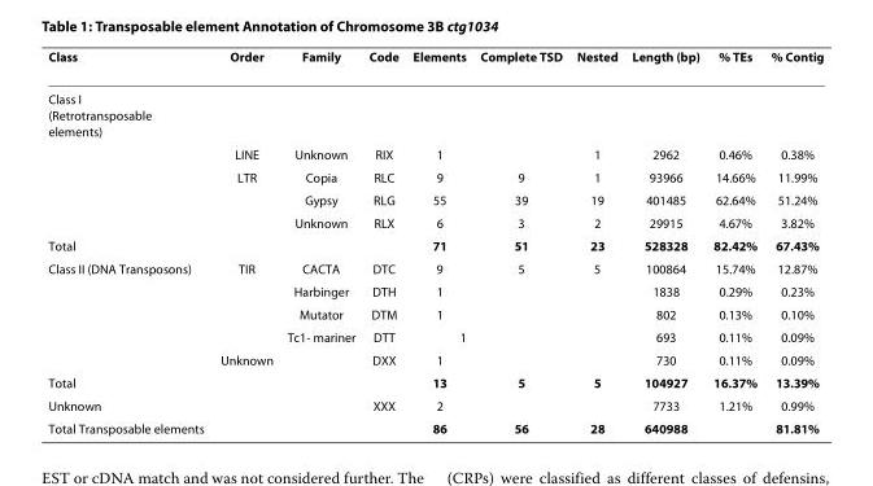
<table><thead><tr><td>Class</td><td>Order</td><td>Family</td><td>Code</td><td>Elements</td><td>Complete TSD</td><td>Nested</td><td>Length (bp)</td><td>% TEs</td><td>% Contig</td></tr></thead><tbody><tr><td colspan="10">Class I (Retrotransposable elements)</td></tr><tr><td></td><td>LINE</td><td>Unknown</td><td>RIX</td><td>1</td><td></td><td>1</td><td>2962</td><td>0.46%</td><td>0.38%</td></tr><tr><td></td><td>LTR</td><td>Copia</td><td>RLC</td><td>9</td><td>9</td><td>1</td><td>93966</td><td>14.66%</td><td>11.99%</td></tr><tr><td></td><td></td><td>Gypsy</td><td>RLG</td><td>55</td><td>39</td><td>19</td><td>401485</td><td>62.64%</td><td>51.24%</td></tr><tr><td></td><td></td><td>Unknown</td><td>RLX</td><td>6</td><td>3</td><td>2</td><td>29915</td><td>4.67%</td><td>3.82%</td></tr><tr><td>Total</td><td></td><td></td><td></td><td>71</td><td>51</td><td>23</td><td>528328</td><td>82.42%</td><td>67.43%</td></tr><tr><td rowspan="5">Class II (DNA Transposons)</td><td>TIR</td><td>CACTA</td><td>DTC</td><td>9</td><td>5</td><td>5</td><td>100864</td><td>15.74%</td><td>12.87%</td></tr><tr><td></td><td>Harbinger</td><td>DTH</td><td>1</td><td></td><td></td><td>1838</td><td>0.29%</td><td>0.23%</td></tr><tr><td></td><td>Mutator</td><td>DTM</td><td>1</td><td></td><td></td><td>802</td><td>0.13%</td><td>0.10%</td></tr><tr><td></td><td>Tc1- mariner</td><td>DTT</td><td>1</td><td></td><td></td><td>693</td><td>0.11%</td><td>0.09%</td></tr><tr><td>Unknown</td><td></td><td>DXX</td><td>1</td><td></td><td></td><td>730</td><td>0.11%</td><td>0.09%</td></tr><tr><td>Total</td><td></td><td></td><td></td><td>13</td><td>5</td><td>5</td><td>104927</td><td>16.37%</td><td>13.39%</td></tr><tr><td>Unknown</td><td></td><td></td><td>XXX</td><td>2</td><td></td><td></td><td>7733</td><td>1.21%</td><td>0.99%</td></tr><tr><td>Total Transposable elements</td><td></td><td></td><td></td><td>86</td><td>56</td><td>28</td><td>640988</td><td></td><td>81.81%</td></tr></tbody></table>